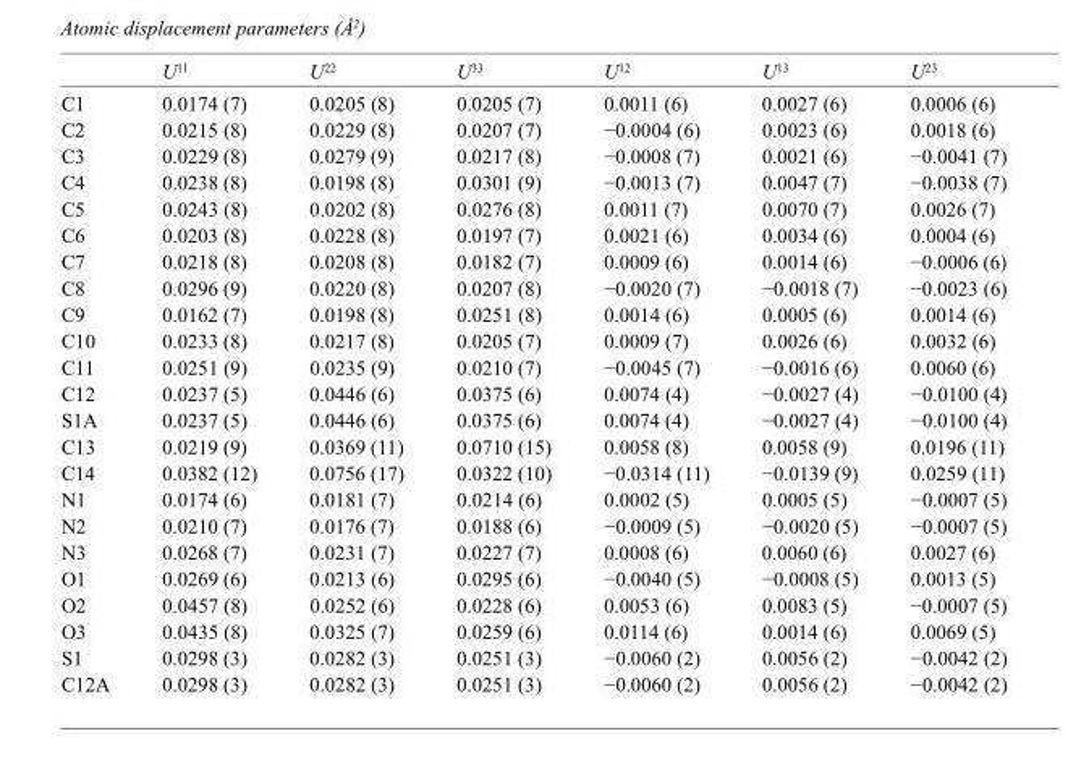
<table><thead><tr><td></td><td>U<sup>11</sup></td><td>U<sup>22</sup></td><td>U<sup>33</sup></td><td>U<sup>12</sup></td><td>U<sup>13</sup></td><td>U<sup>23</sup></td></tr></thead><tbody><tr><td>C1</td><td>0.0174 (7)</td><td>0.0205 (8)</td><td>0.0205 (7)</td><td>0.0011 (6)</td><td>0.0027 (6)</td><td>0.0006 (6)</td></tr><tr><td>C2</td><td>0.0215 (8)</td><td>0.0229 (8)</td><td>0.0207 (7)</td><td>−0.0004 (6)</td><td>0.0023 (6)</td><td>0.0018 (6)</td></tr><tr><td>C3</td><td>0.0229 (8)</td><td>0.0279 (9)</td><td>0.0217 (8)</td><td>−0.0008 (7)</td><td>0.0021 (6)</td><td>−0.0041 (7)</td></tr><tr><td>C4</td><td>0.0238 (8)</td><td>0.0198 (8)</td><td>0.0301 (9)</td><td>−0.0013 (7)</td><td>0.0047 (7)</td><td>−0.0038 (7)</td></tr><tr><td>C5</td><td>0.0243 (8)</td><td>0.0202 (8)</td><td>0.0276 (8)</td><td>0.0011 (7)</td><td>0.0070 (7)</td><td>0.0026 (7)</td></tr><tr><td>C6</td><td>0.0203 (8)</td><td>0.0228 (8)</td><td>0.0197 (7)</td><td>0.0021 (6)</td><td>0.0034 (6)</td><td>0.0004 (6)</td></tr><tr><td>C7</td><td>0.0218 (8)</td><td>0.0208 (8)</td><td>0.0182 (7)</td><td>0.0009 (6)</td><td>0.0014 (6)</td><td>−0.0006 (6)</td></tr><tr><td>C8</td><td>0.0296 (9)</td><td>0.0220 (8)</td><td>0.0207 (8)</td><td>−0.0020 (7)</td><td>−0.0018 (7)</td><td>−0.0023 (6)</td></tr><tr><td>C9</td><td>0.0162 (7)</td><td>0.0198 (8)</td><td>0.0251 (8)</td><td>0.0014 (6)</td><td>0.0005 (6)</td><td>0.0014 (6)</td></tr><tr><td>C10</td><td>0.0233 (8)</td><td>0.0217 (8)</td><td>0.0205 (7)</td><td>0.0009 (7)</td><td>0.0026 (6)</td><td>0.0032 (6)</td></tr><tr><td>C11</td><td>0.0251 (9)</td><td>0.0235 (9)</td><td>0.0210 (7)</td><td>−0.0045 (7)</td><td>−0.0016 (6)</td><td>0.0060 (6)</td></tr><tr><td>C12</td><td>0.0237 (5)</td><td>0.0446 (6)</td><td>0.0375 (6)</td><td>0.0074 (4)</td><td>−0.0027 (4)</td><td>−0.0100 (4)</td></tr><tr><td>S1A</td><td>0.0237 (5)</td><td>0.0446 (6)</td><td>0.0375 (6)</td><td>0.0074 (4)</td><td>−0.0027 (4)</td><td>−0.0100 (4)</td></tr><tr><td>C13</td><td>0.0219 (9)</td><td>0.0369 (11)</td><td>0.0710 (15)</td><td>0.0058 (8)</td><td>0.0058 (9)</td><td>0.0196 (11)</td></tr><tr><td>C14</td><td>0.0382 (12)</td><td>0.0756 (17)</td><td>0.0322 (10)</td><td>−0.0314 (11)</td><td>−0.0139 (9)</td><td>0.0259 (11)</td></tr><tr><td>N1</td><td>0.0174 (6)</td><td>0.0181 (7)</td><td>0.0214 (6)</td><td>0.0002 (5)</td><td>0.0005 (5)</td><td>−0.0007 (5)</td></tr><tr><td>N2</td><td>0.0210 (7)</td><td>0.0176 (7)</td><td>0.0188 (6)</td><td>−0.0009 (5)</td><td>−0.0020 (5)</td><td>−0.0007 (5)</td></tr><tr><td>N3</td><td>0.0268 (7)</td><td>0.0231 (7)</td><td>0.0227 (7)</td><td>0.0008 (6)</td><td>0.0060 (6)</td><td>0.0027 (6)</td></tr><tr><td>O1</td><td>0.0269 (6)</td><td>0.0213 (6)</td><td>0.0295 (6)</td><td>−0.0040 (5)</td><td>−0.0008 (5)</td><td>0.0013 (5)</td></tr><tr><td>O2</td><td>0.0457 (8)</td><td>0.0252 (6)</td><td>0.0228 (6)</td><td>0.0053 (6)</td><td>0.0083 (5)</td><td>−0.0007 (5)</td></tr><tr><td>O3</td><td>0.0435 (8)</td><td>0.0325 (7)</td><td>0.0259 (6)</td><td>0.0114 (6)</td><td>0.0014 (6)</td><td>0.0069 (5)</td></tr><tr><td>S1</td><td>0.0298 (3)</td><td>0.0282 (3)</td><td>0.0251 (3)</td><td>−0.0060 (2)</td><td>0.0056 (2)</td><td>−0.0042 (2)</td></tr><tr><td>C12A</td><td>0.0298 (3)</td><td>0.0282 (3)</td><td>0.0251 (3)</td><td>−0.0060 (2)</td><td>0.0056 (2)</td><td>−0.0042 (2)</td></tr></tbody></table>